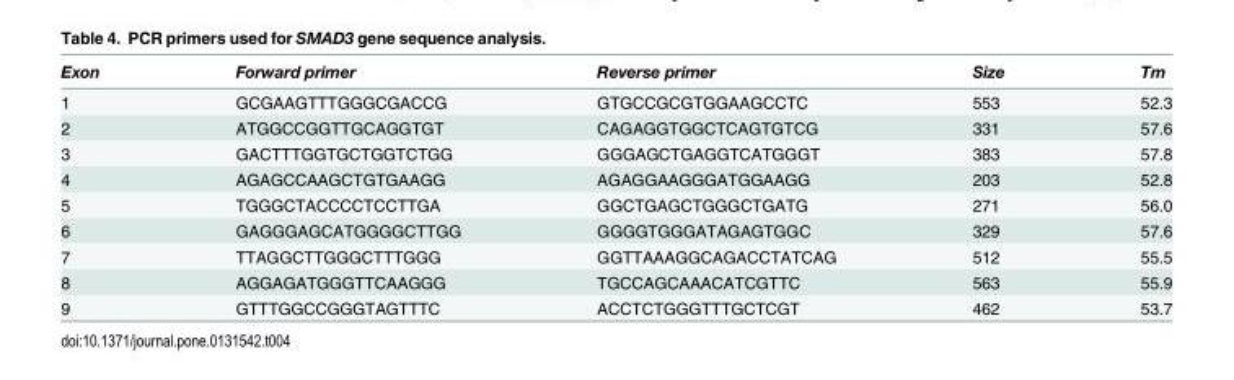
<table><thead><tr><td>Exon</td><td>Forward primer</td><td>Reverse primer</td><td>Size</td><td>Tm</td></tr></thead><tbody><tr><td>1</td><td>GCGAAGTTTGGGCGACCG</td><td>GTGCCGCGTGGAAGCCTC</td><td>553</td><td>52.3</td></tr><tr><td>2</td><td>ATGGCCGGTTGCAGGTGT</td><td>CAGAGGTGGCTCAGTGTCG</td><td>331</td><td>57.6</td></tr><tr><td>3</td><td>GACTTTGGTGCTGGTCTGG</td><td>GGGAGCTGAGGTCATGGGT</td><td>383</td><td>57.8</td></tr><tr><td>4</td><td>AGAGCCAAGCTGTGAAGG</td><td>AGAGGAAGGGATGGAAGG</td><td>203</td><td>52.8</td></tr><tr><td>5</td><td>TGGGCTACCCCTCCTTGA</td><td>GGCTGAGCTGGGCTGATG</td><td>271</td><td>56.0</td></tr><tr><td>6</td><td>GAGGGAGCATGGGGCTTGG</td><td>GGGGTGGGATAGAGTGGC</td><td>329</td><td>57.6</td></tr><tr><td>7</td><td>TTAGGCTTGGGCTTTGGG</td><td>GGTTAAAGGCAGACCTATCAG</td><td>512</td><td>55.5</td></tr><tr><td>8</td><td>AGGAGATGGGTTCAAGGG</td><td>TGCCAGCAAACATCGTTC</td><td>563</td><td>55.9</td></tr><tr><td>9</td><td>GTTTGGCCGGGTAGTTTC</td><td>ACCTCTGGGTTTGCTCGT</td><td>462</td><td>53.7</td></tr></tbody></table>